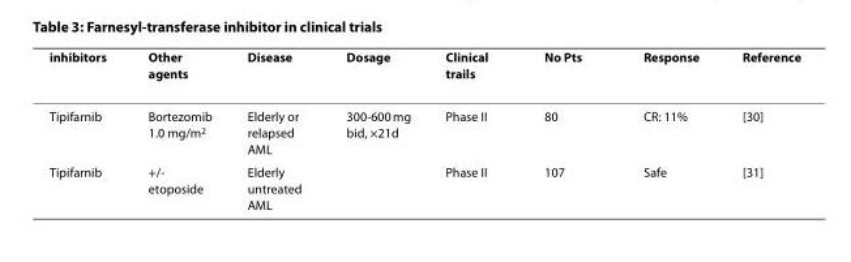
<table><thead><tr><td>inhibitors</td><td>Other agents</td><td>Disease</td><td>Dosage</td><td>Clinical trails</td><td>No Pts</td><td>Response</td><td>Reference</td></tr></thead><tbody><tr><td>Tipifarnib</td><td>Bortezomib 1.0 mg/m<sup>2</sup></td><td>Elderly or relapsed AML</td><td>300-600 mg bid, ×21d</td><td>Phase II</td><td>80</td><td>CR: 11%</td><td>[30]</td></tr><tr><td>Tipifarnib</td><td>+/- etoposide</td><td>Elderly untreated AML</td><td></td><td>Phase II</td><td>107</td><td>Safe</td><td>[31]</td></tr></tbody></table>